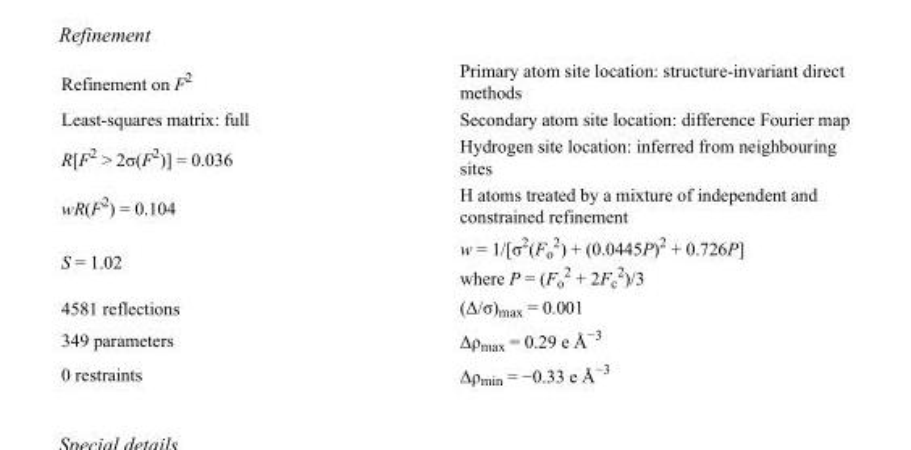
<table><tbody><tr><td>Refinement on F<sup>2</sup></td><td>Primary atom site location: structure-invariant direct methods</td></tr><tr><td>Least-squares matrix: full</td><td>Secondary atom site location: difference Fourier map</td></tr><tr><td>R[F<sup>2</sup> &gt; 2σ(F<sup>2</sup>)] = 0.036</td><td>Hydrogen site location: inferred from neighbouring sites</td></tr><tr><td>wR(F<sup>2</sup>) = 0.104</td><td>H atoms treated by a mixture of independent and constrained refinement</td></tr><tr><td>S = 1.02</td><td>w = 1/[σ<sup>2</sup>(F<sub>o</sub> <sup>2</sup>) + (0.0445P)<sup>2</sup> + 0.726P] where P = (F<sub>o</sub> <sup>2</sup> + 2F<sub>c</sub> <sup>2</sup>)/3</td></tr><tr><td>4581 reflections</td><td>(Δ/σ)<sub>max</sub> = 0.001</td></tr><tr><td>349 parameters</td><td>Δρ<sub>max</sub> = 0.29 e Å<sup>−3</sup></td></tr><tr><td>0 restraints</td><td>Δρ<sub>min</sub> = −0.33 e Å<sup>−3</sup></td></tr></tbody></table>